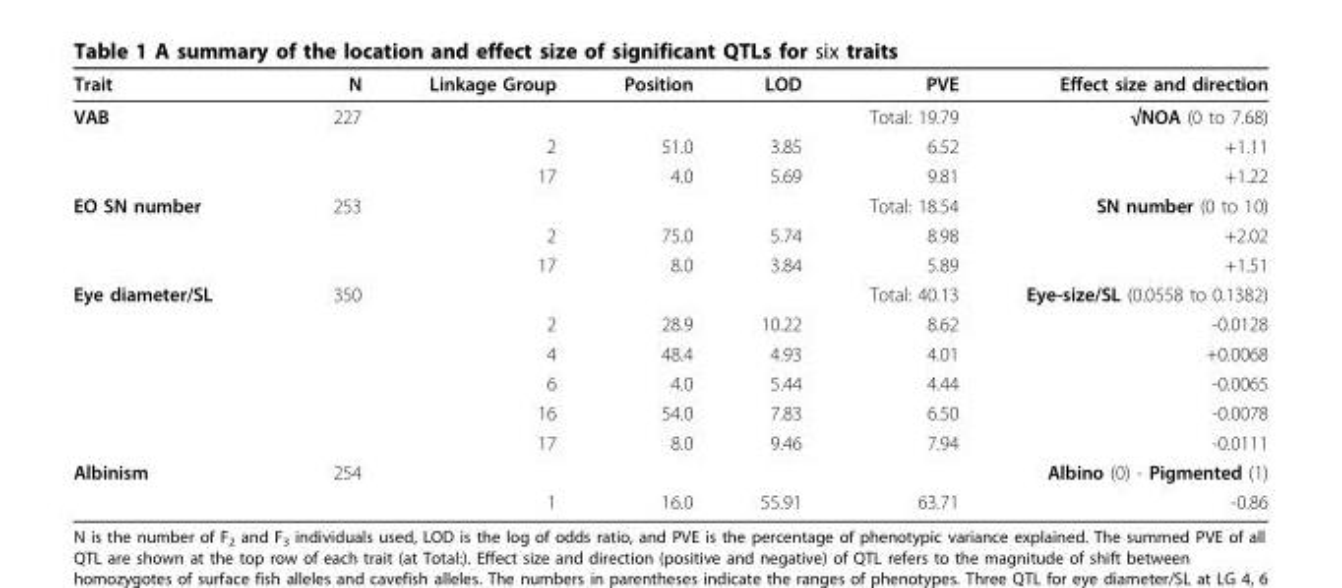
<table><thead><tr><td>Trait</td><td>N</td><td>Linkage Group</td><td>Position</td><td>LOD</td><td>PVE</td><td>Effect size and direction</td></tr></thead><tbody><tr><td rowspan="3">VAB</td><td>227</td><td></td><td></td><td></td><td>Total: 19.79</td><td>√NOA (0 to 7.68)</td></tr><tr><td></td><td>2</td><td>51.0</td><td>3.85</td><td>6.52</td><td>+1.11</td></tr><tr><td></td><td>17</td><td>4.0</td><td>5.69</td><td>9.81</td><td>+1.22</td></tr><tr><td rowspan="3">EO SN number</td><td>253</td><td></td><td></td><td></td><td>Total: 18.54</td><td>SN number (0 to 10)</td></tr><tr><td></td><td>2</td><td>75.0</td><td>5.74</td><td>8.98</td><td>+2.02</td></tr><tr><td></td><td>17</td><td>8.0</td><td>3.84</td><td>5.89</td><td>+1.51</td></tr><tr><td rowspan="6">Eye diameter/SL</td><td>350</td><td></td><td></td><td></td><td>Total: 40.13</td><td>Eye-size/SL (0.0558 to 0.1382)</td></tr><tr><td></td><td>2</td><td>28.9</td><td>10.22</td><td>8.62</td><td>-0.0128</td></tr><tr><td></td><td>4</td><td>48.4</td><td>4.93</td><td>4.01</td><td>+0.0068</td></tr><tr><td></td><td>6</td><td>4.0</td><td>5.44</td><td>4.44</td><td>-0.0065</td></tr><tr><td></td><td>16</td><td>54.0</td><td>7.83</td><td>6.50</td><td>-0.0078</td></tr><tr><td></td><td>17</td><td>8.0</td><td>9.46</td><td>7.94</td><td>-0.0111</td></tr><tr><td rowspan="2">Albinism</td><td>254</td><td></td><td></td><td></td><td></td><td>Albino (0) - Pigmented (1)</td></tr><tr><td></td><td>1</td><td>16.0</td><td>55.91</td><td>63.71</td><td>-0.86</td></tr></tbody></table>